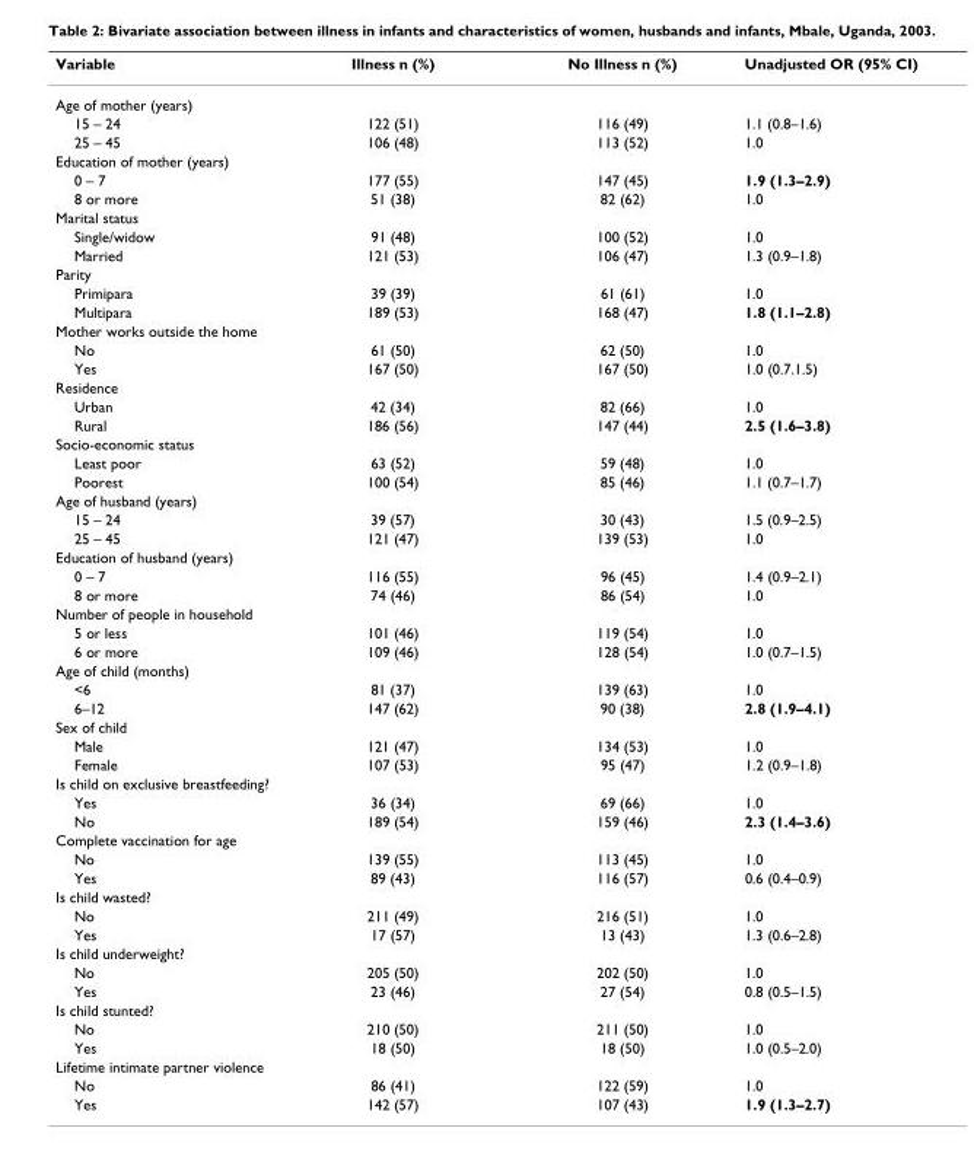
<table><thead><tr><td>Variable</td><td>Illness n (%)</td><td>No Illness n (%)</td><td>Unadjusted OR (95% CI)</td></tr></thead><tbody><tr><td colspan="4">Age of mother (years)</td></tr><tr><td>15 – 24</td><td>122 (51)</td><td>116 (49)</td><td>1.1 (0.8–1.6)</td></tr><tr><td>25 – 45</td><td>106 (48)</td><td>113 (52)</td><td>1.0</td></tr><tr><td colspan="4">Education of mother (years)</td></tr><tr><td>0 – 7</td><td>177 (55)</td><td>147 (45)</td><td>1.9 (1.3–2.9)</td></tr><tr><td>8 or more</td><td>51 (38)</td><td>82 (62)</td><td>1.0</td></tr><tr><td colspan="4">Marital status</td></tr><tr><td>Single/widow</td><td>91 (48)</td><td>100 (52)</td><td>1.0</td></tr><tr><td>Married</td><td>121 (53)</td><td>106 (47)</td><td>1.3 (0.9–1.8)</td></tr><tr><td colspan="4">Parity</td></tr><tr><td>Primipara</td><td>39 (39)</td><td>61 (61)</td><td>1.0</td></tr><tr><td>Multipara</td><td>189 (53)</td><td>168 (47)</td><td>1.8 (1.1–2.8)</td></tr><tr><td colspan="4">Mother works outside the home</td></tr><tr><td>No</td><td>61 (50)</td><td>62 (50)</td><td>1.0</td></tr><tr><td>Yes</td><td>167 (50)</td><td>167 (50)</td><td>1.0 (0.7.1.5)</td></tr><tr><td colspan="4">Residence</td></tr><tr><td>Urban</td><td>42 (34)</td><td>82 (66)</td><td>1.0</td></tr><tr><td>Rural</td><td>186 (56)</td><td>147 (44)</td><td>2.5 (1.6–3.8)</td></tr><tr><td colspan="4">Socio-economic status</td></tr><tr><td>Least poor</td><td>63 (52)</td><td>59 (48)</td><td>1.0</td></tr><tr><td>Poorest</td><td>100 (54)</td><td>85 (46)</td><td>1.1 (0.7–1.7)</td></tr><tr><td colspan="4">Age of husband (years)</td></tr><tr><td>15 – 24</td><td>39 (57)</td><td>30 (43)</td><td>1.5 (0.9–2.5)</td></tr><tr><td>25 – 45</td><td>121 (47)</td><td>139 (53)</td><td>1.0</td></tr><tr><td colspan="4">Education of husband (years)</td></tr><tr><td>0 – 7</td><td>116 (55)</td><td>96 (45)</td><td>1.4 (0.9–2.1)</td></tr><tr><td>8 or more</td><td>74 (46)</td><td>86 (54)</td><td>1.0</td></tr><tr><td colspan="4">Number of people in household</td></tr><tr><td>5 or less</td><td>101 (46)</td><td>119 (54)</td><td>1.0</td></tr><tr><td>6 or more</td><td>109 (46)</td><td>128 (54)</td><td>1.0 (0.7–1.5)</td></tr><tr><td colspan="4">Age of child (months)</td></tr><tr><td>&lt;6</td><td>81 (37)</td><td>139 (63)</td><td>1.0</td></tr><tr><td>6–12</td><td>147 (62)</td><td>90 (38)</td><td>2.8 (1.9–4.1)</td></tr><tr><td colspan="4">Sex of child</td></tr><tr><td>Male</td><td>121 (47)</td><td>134 (53)</td><td>1.0</td></tr><tr><td>Female</td><td>107 (53)</td><td>95 (47)</td><td>1.2 (0.9–1.8)</td></tr><tr><td colspan="4">Is child on exclusive breastfeeding?</td></tr><tr><td>Yes</td><td>36 (34)</td><td>69 (66)</td><td>1.0</td></tr><tr><td>No</td><td>189 (54)</td><td>159 (46)</td><td>2.3 (1.4–3.6)</td></tr><tr><td colspan="4">Complete vaccination for age</td></tr><tr><td>No</td><td>139 (55)</td><td>113 (45)</td><td>1.0</td></tr><tr><td>Yes</td><td>89 (43)</td><td>116 (57)</td><td>0.6 (0.4–0.9)</td></tr><tr><td colspan="4">Is child wasted?</td></tr><tr><td>No</td><td>211 (49)</td><td>216 (51)</td><td>1.0</td></tr><tr><td>Yes</td><td>17 (57)</td><td>13 (43)</td><td>1.3 (0.6–2.8)</td></tr><tr><td colspan="4">Is child underweight?</td></tr><tr><td>No</td><td>205 (50)</td><td>202 (50)</td><td>1.0</td></tr><tr><td>Yes</td><td>23 (46)</td><td>27 (54)</td><td>0.8 (0.5–1.5)</td></tr><tr><td colspan="4">Is child stunted?</td></tr><tr><td>No</td><td>210 (50)</td><td>211 (50)</td><td>1.0</td></tr><tr><td>Yes</td><td>18 (50)</td><td>18 (50)</td><td>1.0 (0.5–2.0)</td></tr><tr><td colspan="4">Lifetime intimate partner violence</td></tr><tr><td>No</td><td>86 (41)</td><td>122 (59)</td><td>1.0</td></tr><tr><td>Yes</td><td>142 (57)</td><td>107 (43)</td><td>1.9 (1.3–2.7)</td></tr></tbody></table>